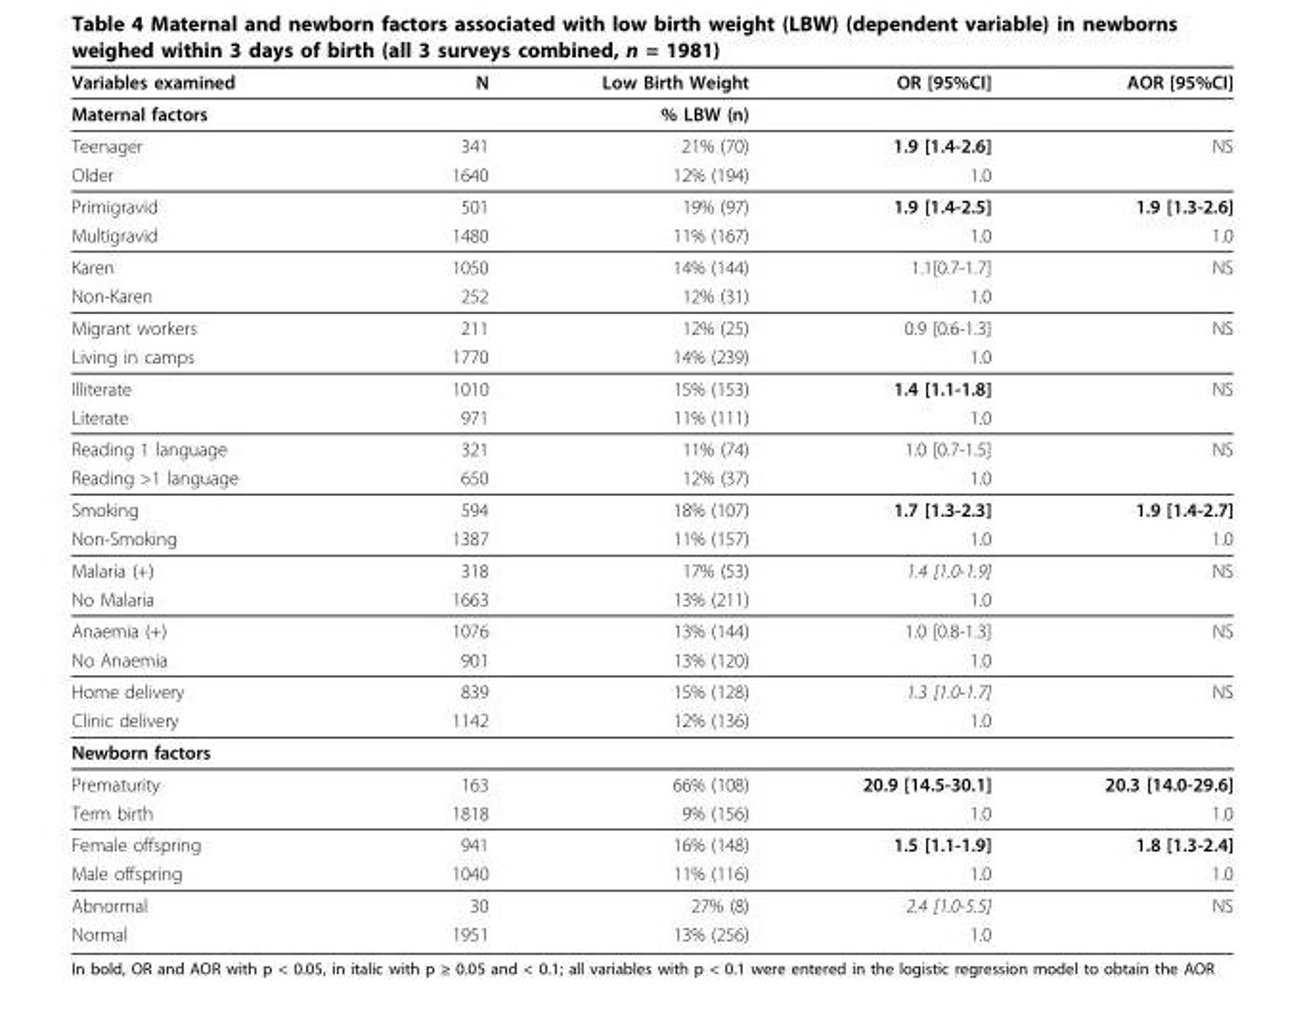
<table><thead><tr><td>Variables examined</td><td>N</td><td>Low Birth Weight</td><td>OR [95%CI]</td><td>AOR [95%CI]</td></tr></thead><tbody><tr><td>Maternal factors</td><td></td><td>% LBW (n)</td><td></td><td></td></tr><tr><td>Teenager</td><td>341</td><td>21% (70)</td><td>1.9 [1.4-2.6]</td><td>NS</td></tr><tr><td>Older</td><td>1640</td><td>12% (194)</td><td>1.0</td><td></td></tr><tr><td>Primigravid</td><td>501</td><td>19% (97)</td><td>1.9 [1.4-2.5]</td><td>1.9 [1.3-2.6]</td></tr><tr><td>Multigravid</td><td>1480</td><td>11% (167)</td><td>1.0</td><td>1.0</td></tr><tr><td>Karen</td><td>1050</td><td>14% (144)</td><td>1.1[0.7-1.7]</td><td>NS</td></tr><tr><td>Non-Karen</td><td>252</td><td>12% (31)</td><td>1.0</td><td></td></tr><tr><td>Migrant workers</td><td>211</td><td>12% (25)</td><td>0.9 [0.6-1.3]</td><td>NS</td></tr><tr><td>Living in camps</td><td>1770</td><td>14% (239)</td><td>1.0</td><td></td></tr><tr><td>Illiterate</td><td>1010</td><td>15% (153)</td><td>1.4 [1.1-1.8]</td><td>NS</td></tr><tr><td>Literate</td><td>971</td><td>11% (111)</td><td>1.0</td><td></td></tr><tr><td>Reading 1 language</td><td>321</td><td>11% (74)</td><td>1.0 [0.7-1.5]</td><td>NS</td></tr><tr><td>Reading &gt;1 language</td><td>650</td><td>12% (37)</td><td>1.0</td><td></td></tr><tr><td>Smoking</td><td>594</td><td>18% (107)</td><td>1.7 [1.3-2.3]</td><td>1.9 [1.4-2.7]</td></tr><tr><td>Non-Smoking</td><td>1387</td><td>11% (157)</td><td>1.0</td><td>1.0</td></tr><tr><td>Malaria (+)</td><td>318</td><td>17% (53)</td><td>1.4 [1.0-1.9]</td><td>NS</td></tr><tr><td>No Malaria</td><td>1663</td><td>13% (211)</td><td>1.0</td><td></td></tr><tr><td>Anaemia (+)</td><td>1076</td><td>13% (144)</td><td>1.0 [0.8-1.3]</td><td>NS</td></tr><tr><td>No Anaemia</td><td>901</td><td>13% (120)</td><td>1.0</td><td></td></tr><tr><td>Home delivery</td><td>839</td><td>15% (128)</td><td>1.3 [1.0-1.7]</td><td>NS</td></tr><tr><td>Clinic delivery</td><td>1142</td><td>12% (136)</td><td>1.0</td><td></td></tr><tr><td colspan="5">Newborn factors</td></tr><tr><td>Prematurity</td><td>163</td><td>66% (108)</td><td>20.9 [14.5-30.1]</td><td>20.3 [14.0-29.6]</td></tr><tr><td>Term birth</td><td>1818</td><td>9% (156)</td><td>1.0</td><td>1.0</td></tr><tr><td>Female offspring</td><td>941</td><td>16% (148)</td><td>1.5 [1.1-1.9]</td><td>1.8 [1.3-2.4]</td></tr><tr><td>Male offspring</td><td>1040</td><td>11% (116)</td><td>1.0</td><td>1.0</td></tr><tr><td>Abnormal</td><td>30</td><td>27% (8)</td><td>2.4 [1.0-5.5]</td><td>NS</td></tr><tr><td>Normal</td><td>1951</td><td>13% (256)</td><td>1.0</td><td></td></tr></tbody></table>